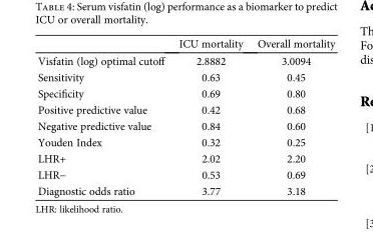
<table><thead><tr><td></td><td>ICU mortality</td><td>Overall mortality</td></tr></thead><tbody><tr><td>Visfatin (log) optimal cutoff</td><td>2.8882</td><td>3.0094</td></tr><tr><td>Sensitivity</td><td>0.63</td><td>0.45</td></tr><tr><td>Specificity</td><td>0.69</td><td>0.80</td></tr><tr><td>Positive predictive value</td><td>0.42</td><td>0.68</td></tr><tr><td>Negative predictive value</td><td>0.84</td><td>0.60</td></tr><tr><td>Youden Index</td><td>0.32</td><td>0.25</td></tr><tr><td>LHR+</td><td>2.02</td><td>2.20</td></tr><tr><td>LHR−</td><td>0.53</td><td>0.69</td></tr><tr><td>Diagnostic odds ratio</td><td>3.77</td><td>3.18</td></tr></tbody></table>